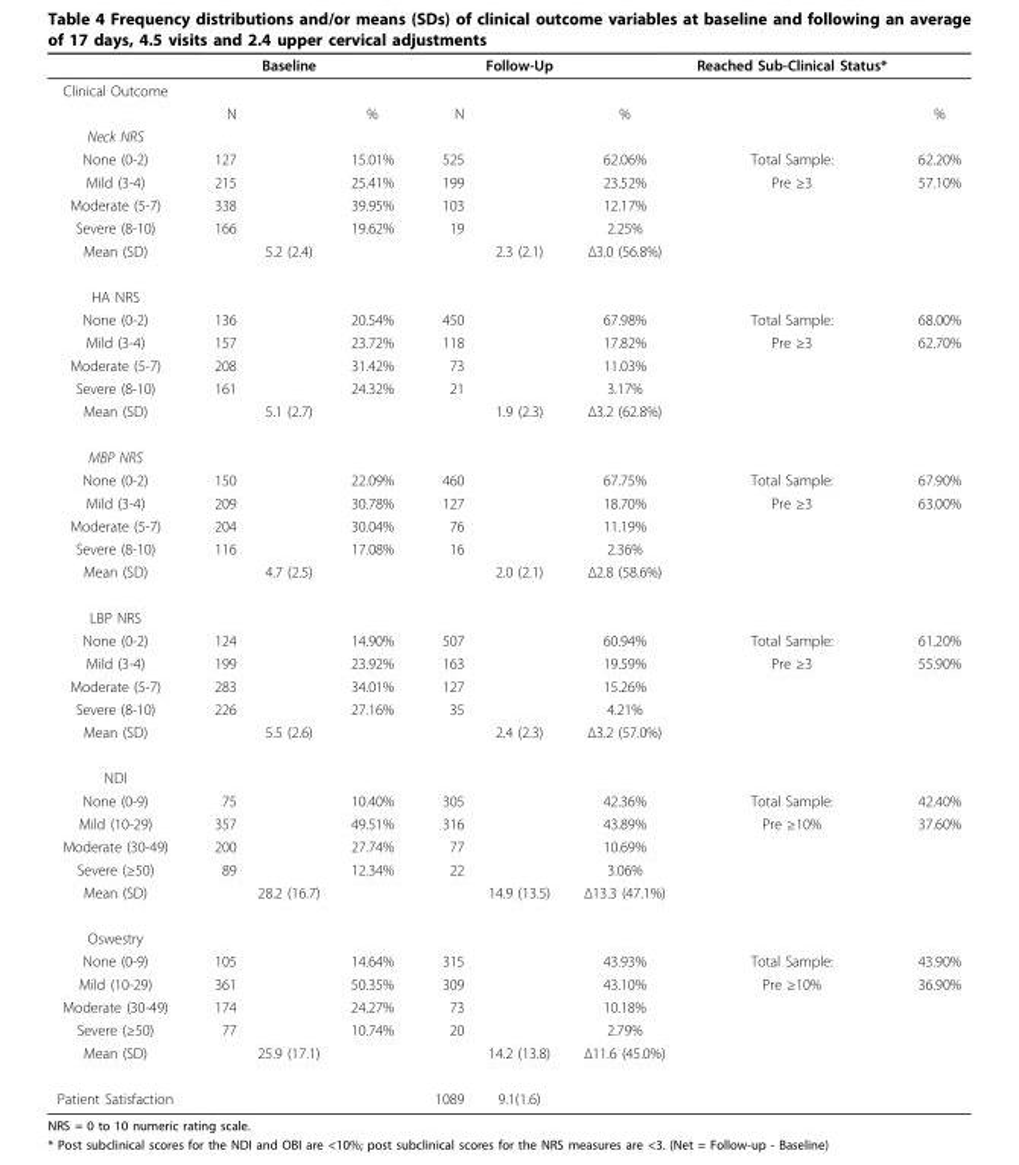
<table><thead><tr><td></td><td></td><td>Baseline</td><td></td><td></td><td>Follow-Up</td><td></td><td>Reached Sub-Clinical Status*</td><td></td></tr></thead><tbody><tr><td colspan="9">Clinical Outcome</td></tr><tr><td></td><td>N</td><td></td><td>%</td><td>N</td><td></td><td>%</td><td></td><td>%</td></tr><tr><td colspan="9">Neck NRS</td></tr><tr><td>None (0-2)</td><td>127</td><td></td><td>15.01%</td><td>525</td><td></td><td>62.06%</td><td>Total Sample:</td><td>62.20%</td></tr><tr><td>Mild (3-4)</td><td>215</td><td></td><td>25.41%</td><td>199</td><td></td><td>23.52%</td><td>Pre ≥3</td><td>57.10%</td></tr><tr><td>Moderate (5-7)</td><td>338</td><td></td><td>39.95%</td><td>103</td><td></td><td>12.17%</td><td></td><td></td></tr><tr><td>Severe (8-10)</td><td>166</td><td></td><td>19.62%</td><td>19</td><td></td><td>2.25%</td><td></td><td></td></tr><tr><td>Mean (SD)</td><td></td><td>5.2 (2.4)</td><td></td><td></td><td>2.3 (2.1)</td><td>Δ3.0 (56.8%)</td><td></td><td></td></tr><tr><td colspan="9">HA NRS</td></tr><tr><td>None (0-2)</td><td>136</td><td></td><td>20.54%</td><td>450</td><td></td><td>67.98%</td><td>Total Sample:</td><td>68.00%</td></tr><tr><td>Mild (3-4)</td><td>157</td><td></td><td>23.72%</td><td>118</td><td></td><td>17.82%</td><td>Pre ≥3</td><td>62.70%</td></tr><tr><td>Moderate (5-7)</td><td>208</td><td></td><td>31.42%</td><td>73</td><td></td><td>11.03%</td><td></td><td></td></tr><tr><td>Severe (8-10)</td><td>161</td><td></td><td>24.32%</td><td>21</td><td></td><td>3.17%</td><td></td><td></td></tr><tr><td>Mean (SD)</td><td></td><td>5.1 (2.7)</td><td></td><td></td><td>1.9 (2.3)</td><td>Δ3.2 (62.8%)</td><td></td><td></td></tr><tr><td colspan="9">MBP NRS</td></tr><tr><td>None (0-2)</td><td>150</td><td></td><td>22.09%</td><td>460</td><td></td><td>67.75%</td><td>Total Sample:</td><td>67.90%</td></tr><tr><td>Mild (3-4)</td><td>209</td><td></td><td>30.78%</td><td>127</td><td></td><td>18.70%</td><td>Pre ≥3</td><td>63.00%</td></tr><tr><td>Moderate (5-7)</td><td>204</td><td></td><td>30.04%</td><td>76</td><td></td><td>11.19%</td><td></td><td></td></tr><tr><td>Severe (8-10)</td><td>116</td><td></td><td>17.08%</td><td>16</td><td></td><td>2.36%</td><td></td><td></td></tr><tr><td>Mean (SD)</td><td></td><td>4.7 (2.5)</td><td></td><td></td><td>2.0 (2.1)</td><td>Δ2.8 (58.6%)</td><td></td><td></td></tr><tr><td colspan="9">LBP NRS</td></tr><tr><td>None (0-2)</td><td>124</td><td></td><td>14.90%</td><td>507</td><td></td><td>60.94%</td><td>Total Sample:</td><td>61.20%</td></tr><tr><td>Mild (3-4)</td><td>199</td><td></td><td>23.92%</td><td>163</td><td></td><td>19.59%</td><td>Pre ≥3</td><td>55.90%</td></tr><tr><td>Moderate (5-7)</td><td>283</td><td></td><td>34.01%</td><td>127</td><td></td><td>15.26%</td><td></td><td></td></tr><tr><td>Severe (8-10)</td><td>226</td><td></td><td>27.16%</td><td>35</td><td></td><td>4.21%</td><td></td><td></td></tr><tr><td>Mean (SD)</td><td></td><td>5.5 (2.6)</td><td></td><td></td><td>2.4 (2.3)</td><td>Δ3.2 (57.0%)</td><td></td><td></td></tr><tr><td colspan="9">NDI</td></tr><tr><td>None (0-9)</td><td>75</td><td></td><td>10.40%</td><td>305</td><td></td><td>42.36%</td><td>Total Sample:</td><td>42.40%</td></tr><tr><td>Mild (10-29)</td><td>357</td><td></td><td>49.51%</td><td>316</td><td></td><td>43.89%</td><td>Pre ≥10%</td><td>37.60%</td></tr><tr><td>Moderate (30-49)</td><td>200</td><td></td><td>27.74%</td><td>77</td><td></td><td>10.69%</td><td></td><td></td></tr><tr><td>Severe (≥50)</td><td>89</td><td></td><td>12.34%</td><td>22</td><td></td><td>3.06%</td><td></td><td></td></tr><tr><td>Mean (SD)</td><td></td><td>28.2 (16.7)</td><td></td><td></td><td>14.9 (13.5)</td><td>Δ13.3 (47.1%)</td><td></td><td></td></tr><tr><td colspan="9">Oswestry</td></tr><tr><td>None (0-9)</td><td>105</td><td></td><td>14.64%</td><td>315</td><td></td><td>43.93%</td><td>Total Sample:</td><td>43.90%</td></tr><tr><td>Mild (10-29)</td><td>361</td><td></td><td>50.35%</td><td>309</td><td></td><td>43.10%</td><td>Pre ≥10%</td><td>36.90%</td></tr><tr><td>Moderate (30-49)</td><td>174</td><td></td><td>24.27%</td><td>73</td><td></td><td>10.18%</td><td></td><td></td></tr><tr><td>Severe (≥50)</td><td>77</td><td></td><td>10.74%</td><td>20</td><td></td><td>2.79%</td><td></td><td></td></tr><tr><td>Mean (SD)</td><td></td><td>25.9 (17.1)</td><td></td><td></td><td>14.2 (13.8)</td><td>Δ11.6 (45.0%)</td><td></td><td></td></tr><tr><td>Patient Satisfaction</td><td></td><td></td><td></td><td>1089</td><td>9.1(1.6)</td><td></td><td></td><td></td></tr></tbody></table>